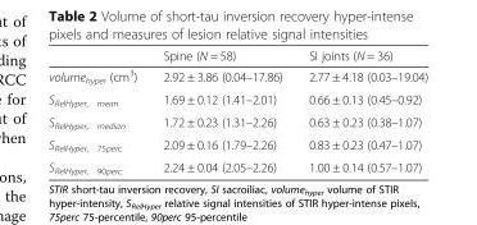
<table><thead><tr><td></td><td>Spine (N = 58)</td><td>SI joints (N = 36)</td></tr></thead><tbody><tr><td>volume<sub>hyper</sub> (cm<sup>3</sup>)</td><td>2.92 ± 3.86 (0.04–17.86)</td><td>2.77 ± 4.18 (0.03–19.04)</td></tr><tr><td>S<sub>RelHyper, mean</sub></td><td>1.69 ± 0.12 (1.41–2.01)</td><td>0.66 ± 0.13 (0.45–0.92)</td></tr><tr><td>S<sub>RelHyper, median</sub></td><td>1.72 ± 0.23 (1.31–2.26)</td><td>0.63 ± 0.23 (0.38–1.07)</td></tr><tr><td>S<sub>RelHyper, 75perc</sub></td><td>2.09 ± 0.16 (1.79–2.26)</td><td>0.83 ± 0.23 (0.47–1.07)</td></tr><tr><td>S<sub>RelHyper, 90perc</sub></td><td>2.24 ± 0.04 (2.05–2.26)</td><td>1.00 ± 0.14 (0.57–1.07)</td></tr></tbody></table>